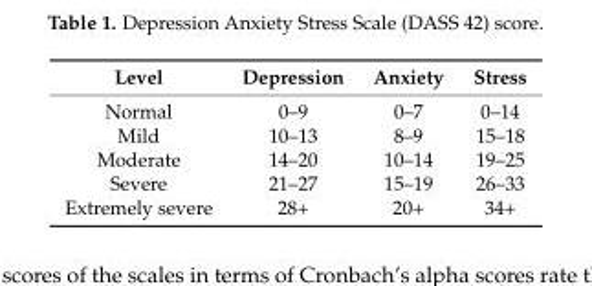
<table><thead><tr><td>Level</td><td>Depression</td><td>Anxiety</td><td>Stress</td></tr></thead><tbody><tr><td>Normal</td><td>0–9</td><td>0–7</td><td>0–14</td></tr><tr><td>Mild</td><td>10–13</td><td>8–9</td><td>15–18</td></tr><tr><td>Moderate</td><td>14–20</td><td>10–14</td><td>19–25</td></tr><tr><td>Severe</td><td>21–27</td><td>15–19</td><td>26–33</td></tr><tr><td>Extremely severe</td><td>28+</td><td>20+</td><td>34+</td></tr></tbody></table>